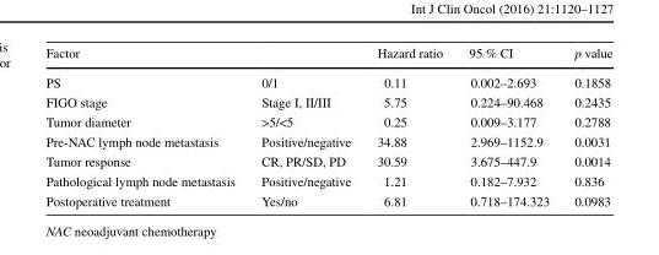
<table><thead><tr><td colspan="2">Factor</td><td rowspan="2">Hazard ratio 0.11</td><td rowspan="2">95 % CI 0.002–2.693</td><td rowspan="2">p value 0.1858</td></tr><tr><td>PS</td><td>0/1</td></tr></thead><tbody><tr><td>FIGO stage</td><td>Stage I, II/III</td><td>5.75</td><td>0.224–90.468</td><td>0.2435</td></tr><tr><td>Tumor diameter</td><td>&gt;5/&lt;5</td><td>0.25</td><td>0.009–3.177</td><td>0.2788</td></tr><tr><td>Pre-NAC lymph node metastasis</td><td>Positive/negative</td><td>34.88</td><td>2.969–1152.9</td><td>0.0031</td></tr><tr><td>Tumor response</td><td>CR, PR/SD, PD</td><td>30.59</td><td>3.675–447.9</td><td>0.0014</td></tr><tr><td>Pathological lymph node metastasis</td><td>Positive/negative</td><td>1.21</td><td>0.182–7.932</td><td>0.836</td></tr><tr><td>Postoperative treatment</td><td>Yes/no</td><td>6.81</td><td>0.718–174.323</td><td>0.0983</td></tr></tbody></table>